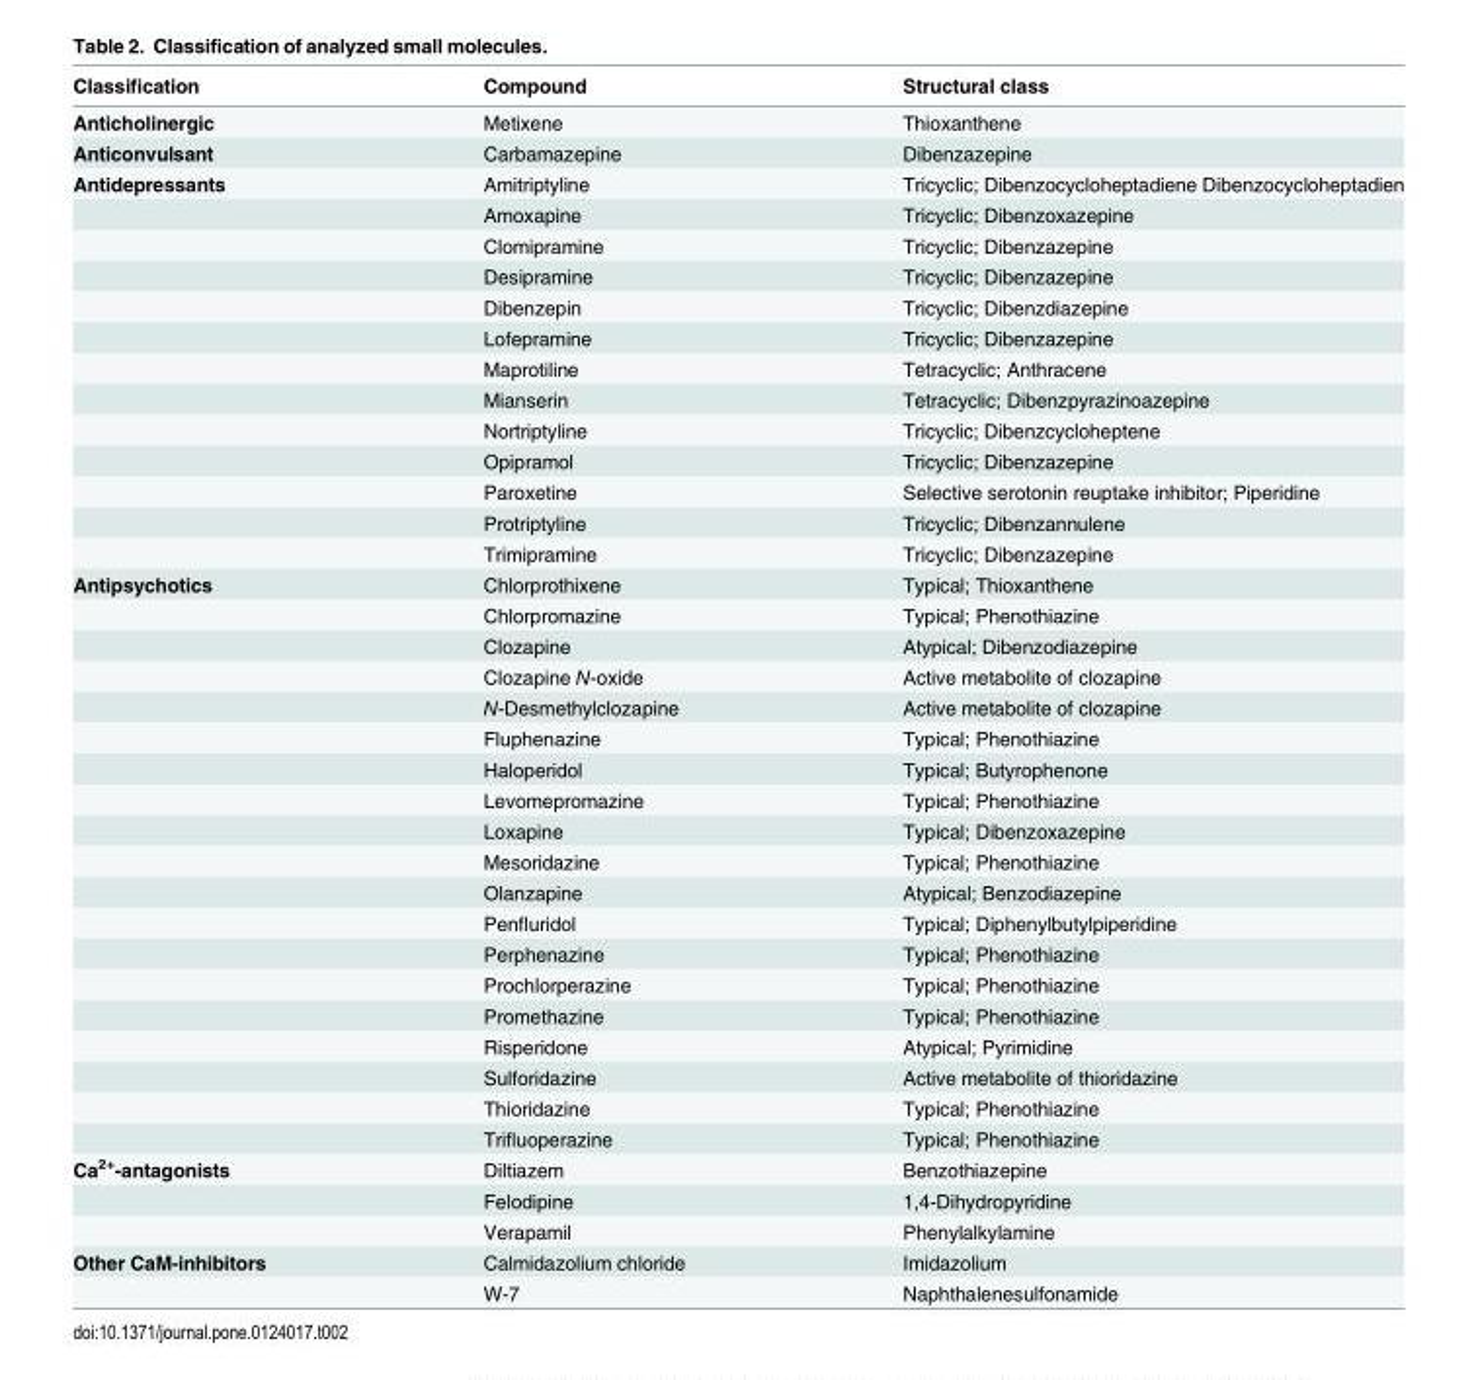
<table><thead><tr><td>Classification</td><td>Compound</td><td>Structural class</td></tr></thead><tbody><tr><td>Anticholinergic</td><td>Metixene</td><td>Thioxanthene</td></tr><tr><td>Anticonvulsant</td><td>Carbamazepine</td><td>Dibenzazepine</td></tr><tr><td rowspan="13">Antidepressants</td><td>Amitriptyline</td><td>Tricyclic; Dibenzocycloheptadiene Dibenzocycloheptadien</td></tr><tr><td>Amoxapine</td><td>Tricyclic; Dibenzoxazepine</td></tr><tr><td>Clomipramine</td><td>Tricyclic; Dibenzazepine</td></tr><tr><td>Desipramine</td><td>Tricyclic; Dibenzazepine</td></tr><tr><td>Dibenzepin</td><td>Tricyclic; Dibenzdiazepine</td></tr><tr><td>Lofepramine</td><td>Tricyclic; Dibenzazepine</td></tr><tr><td>Maprotiline</td><td>Tetracyclic; Anthracene</td></tr><tr><td>Mianserin</td><td>Tetracyclic; Dibenzpyrazinoazepine</td></tr><tr><td>Nortriptyline</td><td>Tricyclic; Dibenzcycloheptene</td></tr><tr><td>Opipramol</td><td>Tricyclic; Dibenzazepine</td></tr><tr><td>Paroxetine</td><td>Selective serotonin reuptake inhibitor; Piperidine</td></tr><tr><td>Protriptyline</td><td>Tricyclic; Dibenzannulene</td></tr><tr><td>Trimipramine</td><td>Tricyclic; Dibenzazepine</td></tr><tr><td rowspan="19">Antipsychotics</td><td>Chlorprothixene</td><td>Typical; Thioxanthene</td></tr><tr><td>Chlorpromazine</td><td>Typical; Phenothiazine</td></tr><tr><td>Clozapine</td><td>Atypical; Dibenzodiazepine</td></tr><tr><td>Clozapine N-oxide</td><td>Active metabolite of clozapine</td></tr><tr><td>N-Desmethylclozapine</td><td>Active metabolite of clozapine</td></tr><tr><td>Fluphenazine</td><td>Typical; Phenothiazine</td></tr><tr><td>Haloperidol</td><td>Typical; Butyrophenone</td></tr><tr><td>Levomepromazine</td><td>Typical; Phenothiazine</td></tr><tr><td>Loxapine</td><td>Typical; Dibenzoxazepine</td></tr><tr><td>Mesoridazine</td><td>Typical; Phenothiazine</td></tr><tr><td>Olanzapine</td><td>Atypical; Benzodiazepine</td></tr><tr><td>Penfluridol</td><td>Typical; Diphenylbutylpiperidine</td></tr><tr><td>Perphenazine</td><td>Typical; Phenothiazine</td></tr><tr><td>Prochlorperazine</td><td>Typical; Phenothiazine</td></tr><tr><td>Promethazine</td><td>Typical; Phenothiazine</td></tr><tr><td>Risperidone</td><td>Atypical; Pyrimidine</td></tr><tr><td>Sulforidazine</td><td>Active metabolite of thioridazine</td></tr><tr><td>Thioridazine</td><td>Typical; Phenothiazine</td></tr><tr><td>Trifluoperazine</td><td>Typical; Phenothiazine</td></tr><tr><td rowspan="3">Ca<sup>2+</sup>-antagonists</td><td>Diltiazem</td><td>Benzothiazepine</td></tr><tr><td>Felodipine</td><td>1,4-Dihydropyridine</td></tr><tr><td>Verapamil</td><td>Phenylalkylamine</td></tr><tr><td rowspan="2">Other CaM-inhibitors</td><td>Calmidazolium chloride</td><td>Imidazolium</td></tr><tr><td>W-7</td><td>Naphthalenesulfonamide</td></tr></tbody></table>